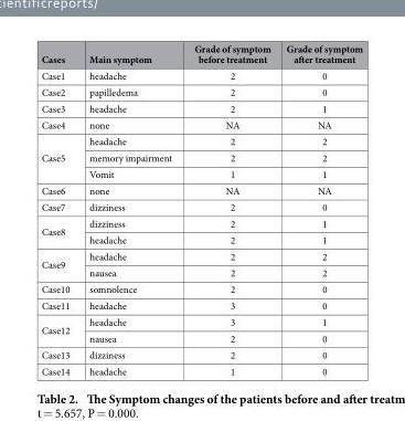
<table><thead><tr><td>Cases</td><td>Main symptom</td><td>Grade of symptom before treatment</td><td>Grade of symptom after treatment</td></tr></thead><tbody><tr><td>Case1</td><td>headache</td><td>2</td><td>0</td></tr><tr><td>Case2</td><td>papilledema</td><td>2</td><td>0</td></tr><tr><td>Case3</td><td>headache</td><td>2</td><td>1</td></tr><tr><td>Case4</td><td>none</td><td>NA</td><td>NA</td></tr><tr><td rowspan="3">Case5</td><td>headache</td><td>2</td><td>2</td></tr><tr><td>memory impairment</td><td>2</td><td>2</td></tr><tr><td>Vomit</td><td>1</td><td>1</td></tr><tr><td>Case6</td><td>none</td><td>NA</td><td>NA</td></tr><tr><td>Case7</td><td>dizziness</td><td>2</td><td>0</td></tr><tr><td rowspan="2">Case8</td><td>dizziness</td><td>2</td><td>1</td></tr><tr><td>headache</td><td>2</td><td>1</td></tr><tr><td rowspan="2">Case9</td><td>headache</td><td>2</td><td>2</td></tr><tr><td>nausea</td><td>2</td><td>2</td></tr><tr><td>Case10</td><td>somnolence</td><td>2</td><td>0</td></tr><tr><td>Case11</td><td>headache</td><td>3</td><td>0</td></tr><tr><td rowspan="2">Case12</td><td>headache</td><td>3</td><td>1</td></tr><tr><td>nausea</td><td>2</td><td>0</td></tr><tr><td>Case13</td><td>dizziness</td><td>2</td><td>0</td></tr><tr><td>Case14</td><td>headache</td><td>1</td><td>0</td></tr></tbody></table>